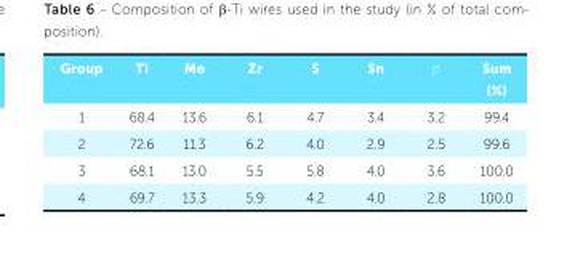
<table><thead><tr><td>Group</td><td>Ti</td><td>Mo</td><td>Zr</td><td>S</td><td>Sn</td><td>p</td><td>Sum (%)</td></tr></thead><tbody><tr><td>1</td><td>68.4</td><td>13.6</td><td>6.1</td><td>4.7</td><td>3.4</td><td>3.2</td><td>99.4</td></tr><tr><td>2</td><td>72.6</td><td>11.3</td><td>6.2</td><td>4.0</td><td>2.9</td><td>2.5</td><td>99.6</td></tr><tr><td>3</td><td>68.1</td><td>13.0</td><td>5.5</td><td>5.8</td><td>4.0</td><td>3.6</td><td>100.0</td></tr><tr><td>4</td><td>69.7</td><td>13.3</td><td>5.9</td><td>4.2</td><td>4.0</td><td>2.8</td><td>100.0</td></tr></tbody></table>